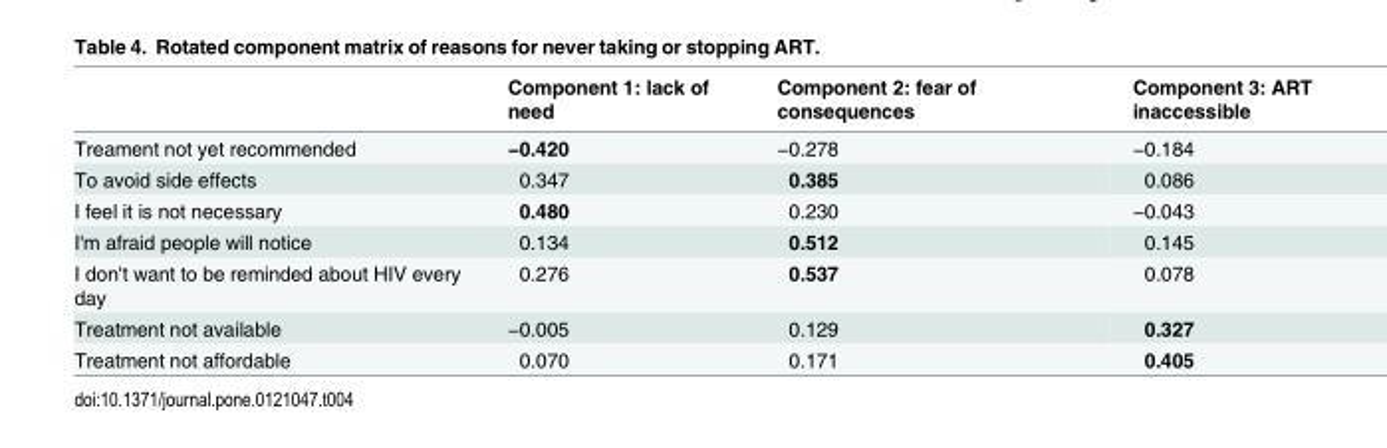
<table><thead><tr><td></td><td>Component 1: lack of need</td><td>Component 2: fear of consequences</td><td>Component 3: ART inaccessible</td></tr></thead><tbody><tr><td>Treament not yet recommended</td><td>−0.420</td><td>−0.278</td><td>−0.184</td></tr><tr><td>To avoid side effects</td><td>0.347</td><td>0.385</td><td>0.086</td></tr><tr><td>I feel it is not necessary</td><td>0.480</td><td>0.230</td><td>−0.043</td></tr><tr><td>I&#x27;m afraid people will notice</td><td>0.134</td><td>0.512</td><td>0.145</td></tr><tr><td>I don&#x27;t want to be reminded about HIV every day</td><td>0.276</td><td>0.537</td><td>0.078</td></tr><tr><td>Treatment not available</td><td>−0.005</td><td>0.129</td><td>0.327</td></tr><tr><td>Treatment not affordable</td><td>0.070</td><td>0.171</td><td>0.405</td></tr></tbody></table>